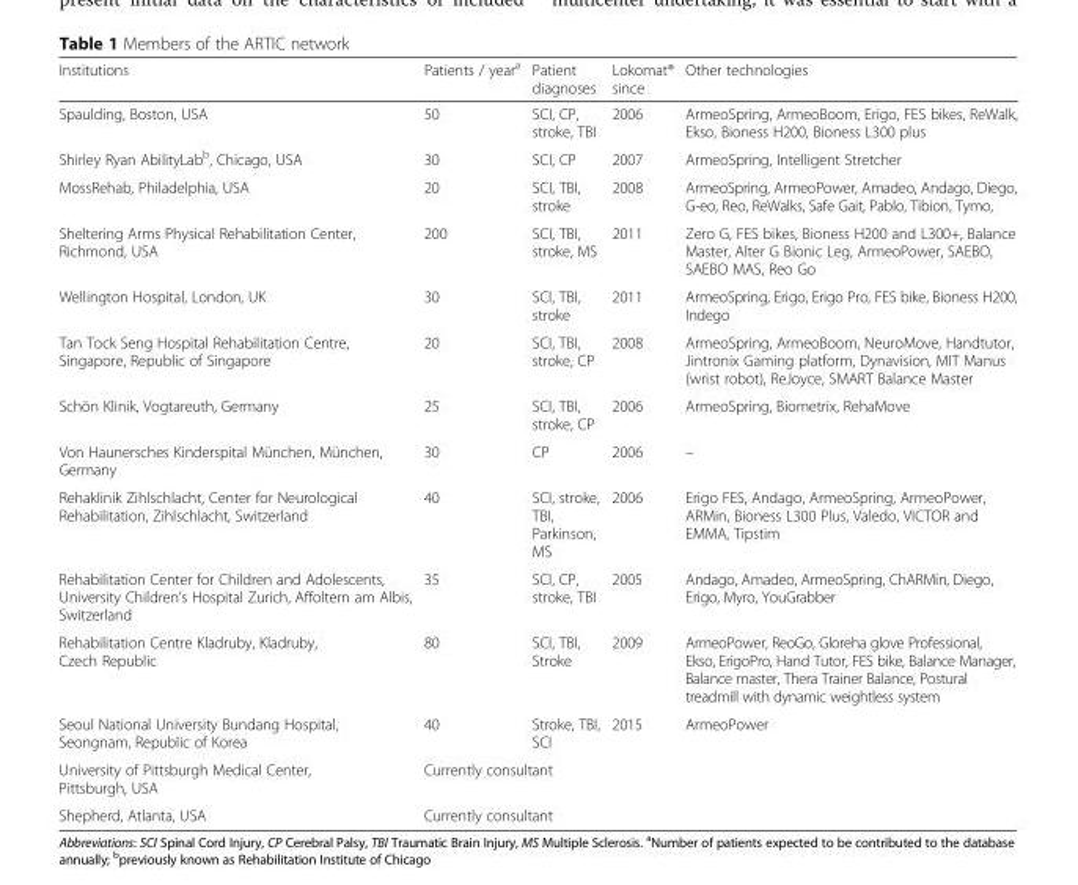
<table><thead><tr><td>Institutions</td><td>Patients / year<sup>a</sup></td><td>Patient diagnoses</td><td>Lokomat® since</td><td>Other technologies</td></tr></thead><tbody><tr><td>Spaulding, Boston, USA</td><td>50</td><td>SCI, CP, stroke, TBI</td><td>2006</td><td>ArmeoSpring, ArmeoBoom, Erigo, FES bikes, ReWalk, Ekso, Bioness H200, Bioness L300 plus</td></tr><tr><td>Shirley Ryan AbilityLab<sup>b</sup>, Chicago, USA</td><td>30</td><td>SCI, CP</td><td>2007</td><td>ArmeoSpring, Intelligent Stretcher</td></tr><tr><td>MossRehab, Philadelphia, USA</td><td>20</td><td>SCI, TBI, stroke</td><td>2008</td><td>ArmeoSpring, ArmeoPower, Amadeo, Andago, Diego, G-eo, Reo, ReWalks, Safe Gait, Pablo, Tibion, Tymo,</td></tr><tr><td>Sheltering Arms Physical Rehabilitation Center, Richmond, USA</td><td>200</td><td>SCI, TBI, stroke, MS</td><td>2011</td><td>Zero G, FES bikes, Bioness H200 and L300+, Balance Master, Alter G Bionic Leg, ArmeoPower, SAEBO, SAEBO MAS, Reo Go</td></tr><tr><td>Wellington Hospital, London, UK</td><td>30</td><td>SCI, TBI, stroke</td><td>2011</td><td>ArmeoSpring, Erigo, Erigo Pro, FES bike, Bioness H200, Indego</td></tr><tr><td>Tan Tock Seng Hospital Rehabilitation Centre, Singapore, Republic of Singapore</td><td>20</td><td>SCI, TBI, stroke, CP</td><td>2008</td><td>ArmeoSpring, ArmeoBoom, NeuroMove, Handtutor, Jintronix Gaming platform, Dynavision, MIT Manus (wrist robot), ReJoyce, SMART Balance Master</td></tr><tr><td>Schön Klinik, Vogtareuth, Germany</td><td>25</td><td>SCI, TBI, stroke, CP</td><td>2006</td><td>ArmeoSpring, Biometrix, RehaMove</td></tr><tr><td>Von Haunersches Kinderspital München, München, Germany</td><td>30</td><td>CP</td><td>2006</td><td>–</td></tr><tr><td>Rehaklinik Zihlschlacht, Center for Neurological Rehabilitation, Zihlschlacht, Switzerland</td><td>40</td><td>SCI, stroke, TBI, Parkinson, MS</td><td>2006</td><td>Erigo FES, Andago, ArmeoSpring, ArmeoPower, ARMin, Bioness L300 Plus, Valedo, VICTOR and EMMA, Tipstim</td></tr><tr><td>Rehabilitation Center for Children and Adolescents, University Children’s Hospital Zurich, Affoltern am Albis, Switzerland</td><td>35</td><td>SCI, CP, stroke, TBI</td><td>2005</td><td>Andago, Amadeo, ArmeoSpring, ChARMin, Diego, Erigo, Myro, YouGrabber</td></tr><tr><td>Rehabilitation Centre Kladruby, Kladruby, Czech Republic</td><td>80</td><td>SCI, TBI, Stroke</td><td>2009</td><td>ArmeoPower, ReoGo, Gloreha glove Professional, Ekso, ErigoPro, Hand Tutor, FES bike, Balance Manager, Balance master, Thera Trainer Balance, Postural treadmill with dynamic weightless system</td></tr><tr><td>Seoul National University Bundang Hospital, Seongnam, Republic of Korea</td><td>40</td><td>Stroke, TBI, SCI</td><td>2015</td><td>ArmeoPower</td></tr><tr><td>University of Pittsburgh Medical Center, Pittsburgh, USA</td><td colspan="4">Currently consultant</td></tr><tr><td>Shepherd, Atlanta, USA</td><td colspan="4">Currently consultant</td></tr></tbody></table>